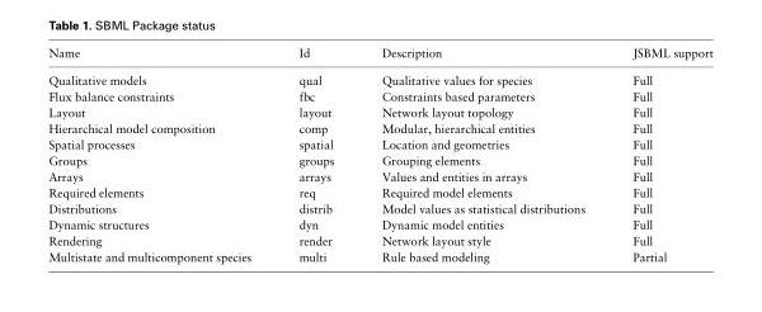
<table><thead><tr><td>Name</td><td>Id</td><td>Description</td><td>JSBML support</td></tr></thead><tbody><tr><td>Qualitative models</td><td>qual</td><td>Qualitative values for species</td><td>Full</td></tr><tr><td>Flux balance constraints</td><td>fbc</td><td>Constraints based parameters</td><td>Full</td></tr><tr><td>Layout</td><td>layout</td><td>Network layout topology</td><td>Full</td></tr><tr><td>Hierarchical model composition</td><td>comp</td><td>Modular, hierarchical entities</td><td>Full</td></tr><tr><td>Spatial processes</td><td>spatial</td><td>Location and geometries</td><td>Full</td></tr><tr><td>Groups</td><td>groups</td><td>Grouping elements</td><td>Full</td></tr><tr><td>Arrays</td><td>arrays</td><td>Values and entities in arrays</td><td>Full</td></tr><tr><td>Required elements</td><td>req</td><td>Required model elements</td><td>Full</td></tr><tr><td>Distributions</td><td>distrib</td><td>Model values as statistical distributions</td><td>Full</td></tr><tr><td>Dynamic structures</td><td>dyn</td><td>Dynamic model entities</td><td>Full</td></tr><tr><td>Rendering</td><td>render</td><td>Network layout style</td><td>Full</td></tr><tr><td>Multistate and multicomponent species</td><td>multi</td><td>Rule based modeling</td><td>Partial</td></tr></tbody></table>